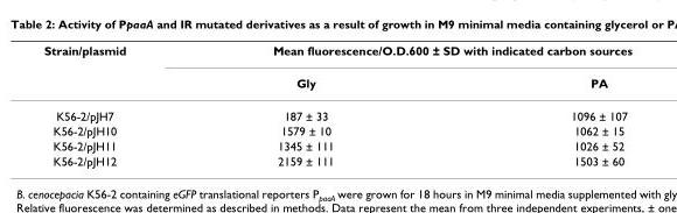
<table><thead><tr><td rowspan="2">Strain/plasmid</td><td colspan="2">Mean fluorescence/O.D.600 ± SD with indicated carbon sources</td></tr><tr><td>Gly</td><td>PA</td></tr></thead><tbody><tr><td>K56-2/pJH7</td><td>187 ± 33</td><td>1096 ± 107</td></tr><tr><td>K56-2/pJH10</td><td>1579 ± 10</td><td>1062 ± 15</td></tr><tr><td>K56-2/pJH11</td><td>1345 ± 111</td><td>1026 ± 52</td></tr><tr><td>K56-2/pJH12</td><td>2159 ± 111</td><td>1503 ± 60</td></tr></tbody></table>